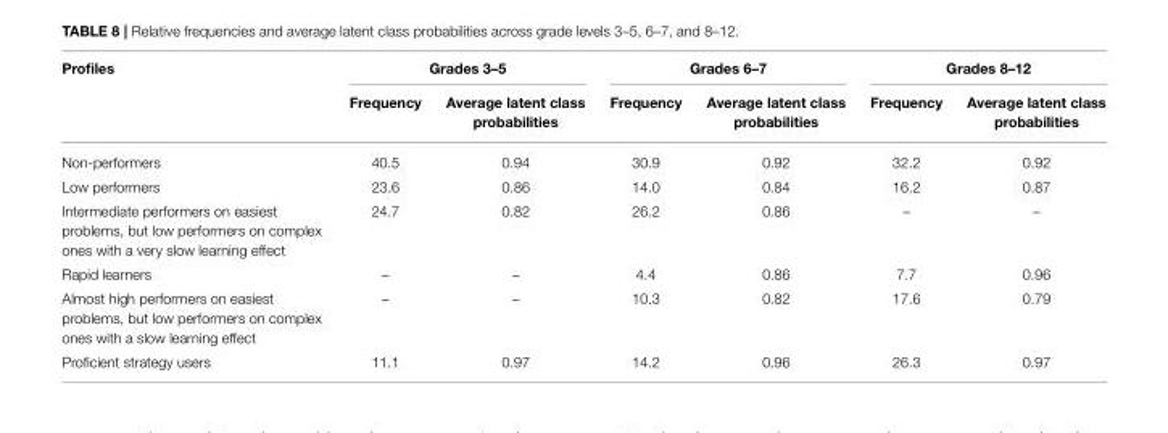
<table><thead><tr><td rowspan="2">Profiles</td><td colspan="2">Grades 3–5</td><td colspan="2">Grades 6–7</td><td colspan="2">Grades 8–12</td></tr><tr><td>Frequency</td><td>Average latent class probabilities</td><td>Frequency</td><td>Average latent class probabilities</td><td>Frequency</td><td>Average latent class probabilities</td></tr></thead><tbody><tr><td>Non-performers</td><td>40.5</td><td>0.94</td><td>30.9</td><td>0.92</td><td>32.2</td><td>0.92</td></tr><tr><td>Low performers</td><td>23.6</td><td>0.86</td><td>14.0</td><td>0.84</td><td>16.2</td><td>0.87</td></tr><tr><td>Intermediate performers on easiest problems, but low performers on complex ones with a very slow learning effect</td><td>24.7</td><td>0.82</td><td>26.2</td><td>0.86</td><td>–</td><td>–</td></tr><tr><td>Rapid learners</td><td>–</td><td>–</td><td>4.4</td><td>0.86</td><td>7.7</td><td>0.96</td></tr><tr><td>Almost high performers on easiest problems, but low performers on complex ones with a slow learning effect</td><td>–</td><td>–</td><td>10.3</td><td>0.82</td><td>17.6</td><td>0.79</td></tr><tr><td>Proficient strategy users</td><td>11.1</td><td>0.97</td><td>14.2</td><td>0.96</td><td>26.3</td><td>0.97</td></tr></tbody></table>